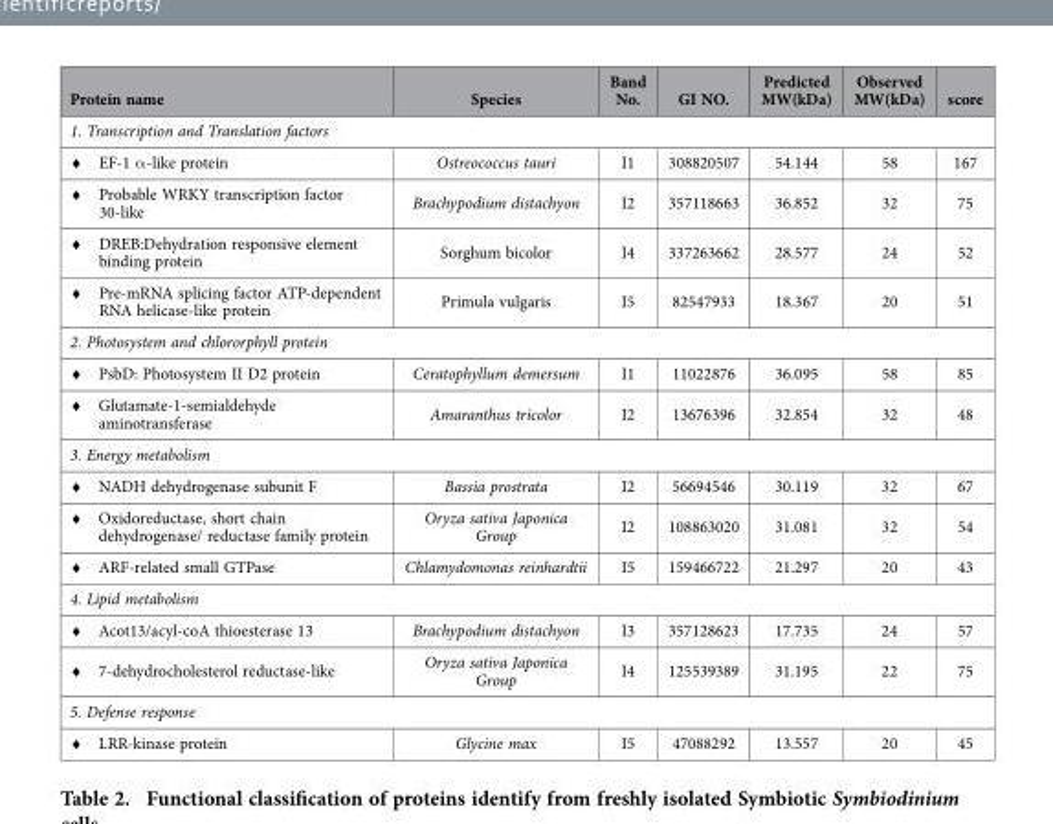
<table><thead><tr><td>Protein name</td><td>Species</td><td>Band No.</td><td>GI NO.</td><td>Predicted MW(kDa)</td><td>Observed MW(kDa)</td><td>score</td></tr></thead><tbody><tr><td colspan="7">1. Transcription and Translation factors</td></tr><tr><td>⧫ EF-1 α -like protein</td><td>Ostreococcus tauri</td><td>I1</td><td>308820507</td><td>54.144</td><td>58</td><td>167</td></tr><tr><td>⧫ Probable WRKY transcription factor 30-like</td><td>Brachypodium distachyon</td><td>I2</td><td>357118663</td><td>36.852</td><td>32</td><td>75</td></tr><tr><td>⧫ DREB:Dehydration responsive element binding protein</td><td>Sorghum bicolor</td><td>I4</td><td>337263662</td><td>28.577</td><td>24</td><td>52</td></tr><tr><td>⧫ Pre-mRNA splicing factor ATP-dependent RNA helicase-like protein</td><td>Primula vulgaris</td><td>I5</td><td>82547933</td><td>18.367</td><td>20</td><td>51</td></tr><tr><td colspan="7">2. Photosystem and chlororphyll protein</td></tr><tr><td>⧫ PsbD: Photosystem II D2 protein</td><td>Ceratophyllum demersum</td><td>I1</td><td>11022876</td><td>36.095</td><td>58</td><td>85</td></tr><tr><td>⧫ Glutamate-1-semialdehyde aminotransferase</td><td>Amaranthus tricolor</td><td>I2</td><td>13676396</td><td>32.854</td><td>32</td><td>48</td></tr><tr><td colspan="7">3. Energy metabolism</td></tr><tr><td>⧫ NADH dehydrogenase subunit F</td><td>Bassia prostrata</td><td>I2</td><td>56694546</td><td>30.119</td><td>32</td><td>67</td></tr><tr><td>⧫ Oxidoreductase, short chain dehydrogenase/ reductase family protein</td><td>Oryza sativa Japonica Group</td><td>I2</td><td>108863020</td><td>31.081</td><td>32</td><td>54</td></tr><tr><td>⧫ ARF-related small GTPase</td><td>Chlamydomonas reinhardtii</td><td>I5</td><td>159466722</td><td>21.297</td><td>20</td><td>43</td></tr><tr><td colspan="7">4. Lipid metabolism</td></tr><tr><td>⧫ Acot13/acyl-coA thioesterase 13</td><td>Brachypodium distachyon</td><td>I3</td><td>357128623</td><td>17.735</td><td>24</td><td>57</td></tr><tr><td>⧫ 7-dehydrocholesterol reductase-like</td><td>Oryza sativa Japonica Group</td><td>I4</td><td>125539389</td><td>31.195</td><td>22</td><td>75</td></tr><tr><td colspan="7">5. Defense response</td></tr><tr><td>⧫ LRR-kinase protein</td><td>Glycine max</td><td>I5</td><td>47088292</td><td>13.557</td><td>20</td><td>45</td></tr></tbody></table>